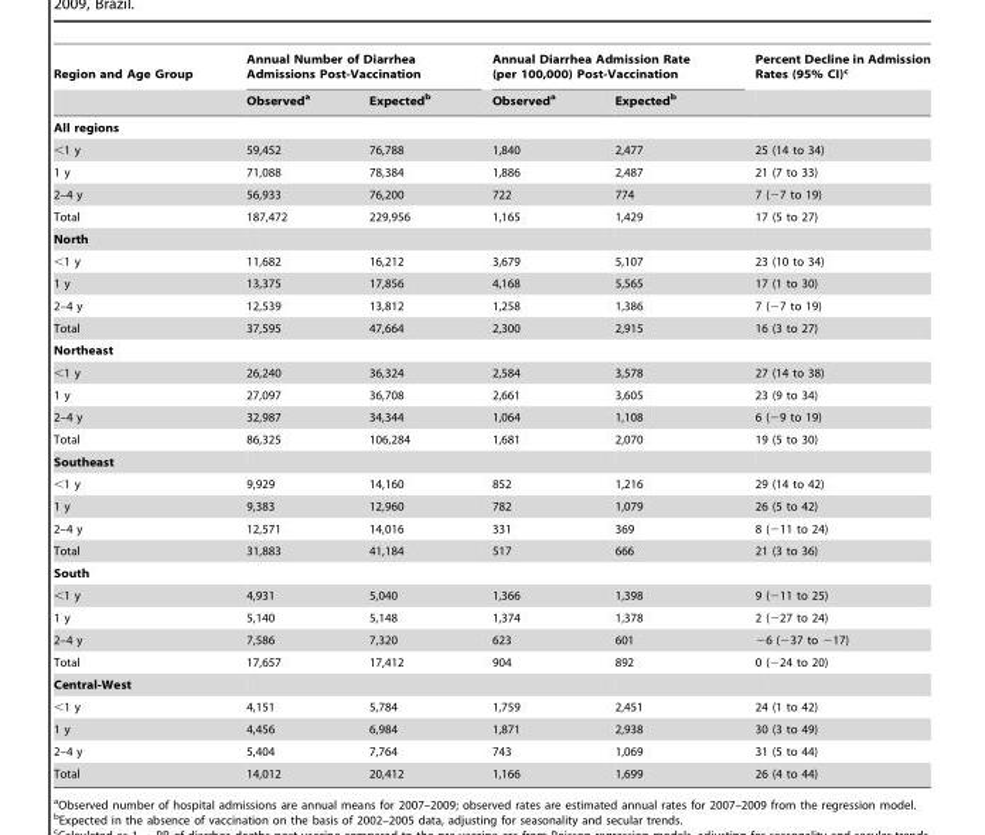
<table><thead><tr><td rowspan="2">Region and Age Group</td><td colspan="2">Annual Number of Diarrhea Admissions Post-Vaccination</td><td colspan="2">Annual Diarrhea Admission Rate (per 100,000) Post-Vaccination</td><td rowspan="2">Percent Decline in Admission Rates (95% CI)<sup>c</sup></td></tr><tr><td>Observed<sup>a</sup></td><td>Expected<sup>b</sup></td><td>Observed<sup>a</sup></td><td>Expected<sup>b</sup></td></tr></thead><tbody><tr><td colspan="6">All regions</td></tr><tr><td>&lt;1 y</td><td>59,452</td><td>76,788</td><td>1,840</td><td>2,477</td><td>25 (14 to 34)</td></tr><tr><td>1 y</td><td>71,088</td><td>78,384</td><td>1,886</td><td>2,487</td><td>21 (7 to 33)</td></tr><tr><td>2–4 y</td><td>56,933</td><td>76,200</td><td>722</td><td>774</td><td>7 (−7 to 19)</td></tr><tr><td>Total</td><td>187,472</td><td>229,956</td><td>1,165</td><td>1,429</td><td>17 (5 to 27)</td></tr><tr><td colspan="6">North</td></tr><tr><td>&lt;1 y</td><td>11,682</td><td>16,212</td><td>3,679</td><td>5,107</td><td>23 (10 to 34)</td></tr><tr><td>1 y</td><td>13,375</td><td>17,856</td><td>4,168</td><td>5,565</td><td>17 (1 to 30)</td></tr><tr><td>2–4 y</td><td>12,539</td><td>13,812</td><td>1,258</td><td>1,386</td><td>7 (−7 to 19)</td></tr><tr><td>Total</td><td>37,595</td><td>47,664</td><td>2,300</td><td>2,915</td><td>16 (3 to 27)</td></tr><tr><td colspan="6">Northeast</td></tr><tr><td>&lt;1 y</td><td>26,240</td><td>36,324</td><td>2,584</td><td>3,578</td><td>27 (14 to 38)</td></tr><tr><td>1 y</td><td>27,097</td><td>36,708</td><td>2,661</td><td>3,605</td><td>23 (9 to 34)</td></tr><tr><td>2–4 y</td><td>32,987</td><td>34,344</td><td>1,064</td><td>1,108</td><td>6 (−9 to 19)</td></tr><tr><td>Total</td><td>86,325</td><td>106,284</td><td>1,681</td><td>2,070</td><td>19 (5 to 30)</td></tr><tr><td colspan="6">Southeast</td></tr><tr><td>&lt;1 y</td><td>9,929</td><td>14,160</td><td>852</td><td>1,216</td><td>29 (14 to 42)</td></tr><tr><td>1 y</td><td>9,383</td><td>12,960</td><td>782</td><td>1,079</td><td>26 (5 to 42)</td></tr><tr><td>2–4 y</td><td>12,571</td><td>14,016</td><td>331</td><td>369</td><td>8 (−11 to 24)</td></tr><tr><td>Total</td><td>31,883</td><td>41,184</td><td>517</td><td>666</td><td>21 (3 to 36)</td></tr><tr><td colspan="6">South</td></tr><tr><td>&lt;1 y</td><td>4,931</td><td>5,040</td><td>1,366</td><td>1,398</td><td>9 (−11 to 25)</td></tr><tr><td>1 y</td><td>5,140</td><td>5,148</td><td>1,374</td><td>1,378</td><td>2 (−27 to 24)</td></tr><tr><td>2–4 y</td><td>7,586</td><td>7,320</td><td>623</td><td>601</td><td>−6 (−37 to −17)</td></tr><tr><td>Total</td><td>17,657</td><td>17,412</td><td>904</td><td>892</td><td>0 (−24 to 20)</td></tr><tr><td colspan="6">Central-West</td></tr><tr><td>&lt;1 y</td><td>4,151</td><td>5,784</td><td>1,759</td><td>2,451</td><td>24 (1 to 42)</td></tr><tr><td>1 y</td><td>4,456</td><td>6,984</td><td>1,871</td><td>2,938</td><td>30 (3 to 49)</td></tr><tr><td>2–4 y</td><td>5,404</td><td>7,764</td><td>743</td><td>1,069</td><td>31 (5 to 44)</td></tr><tr><td>Total</td><td>14,012</td><td>20,412</td><td>1,166</td><td>1,699</td><td>26 (4 to 44)</td></tr></tbody></table>